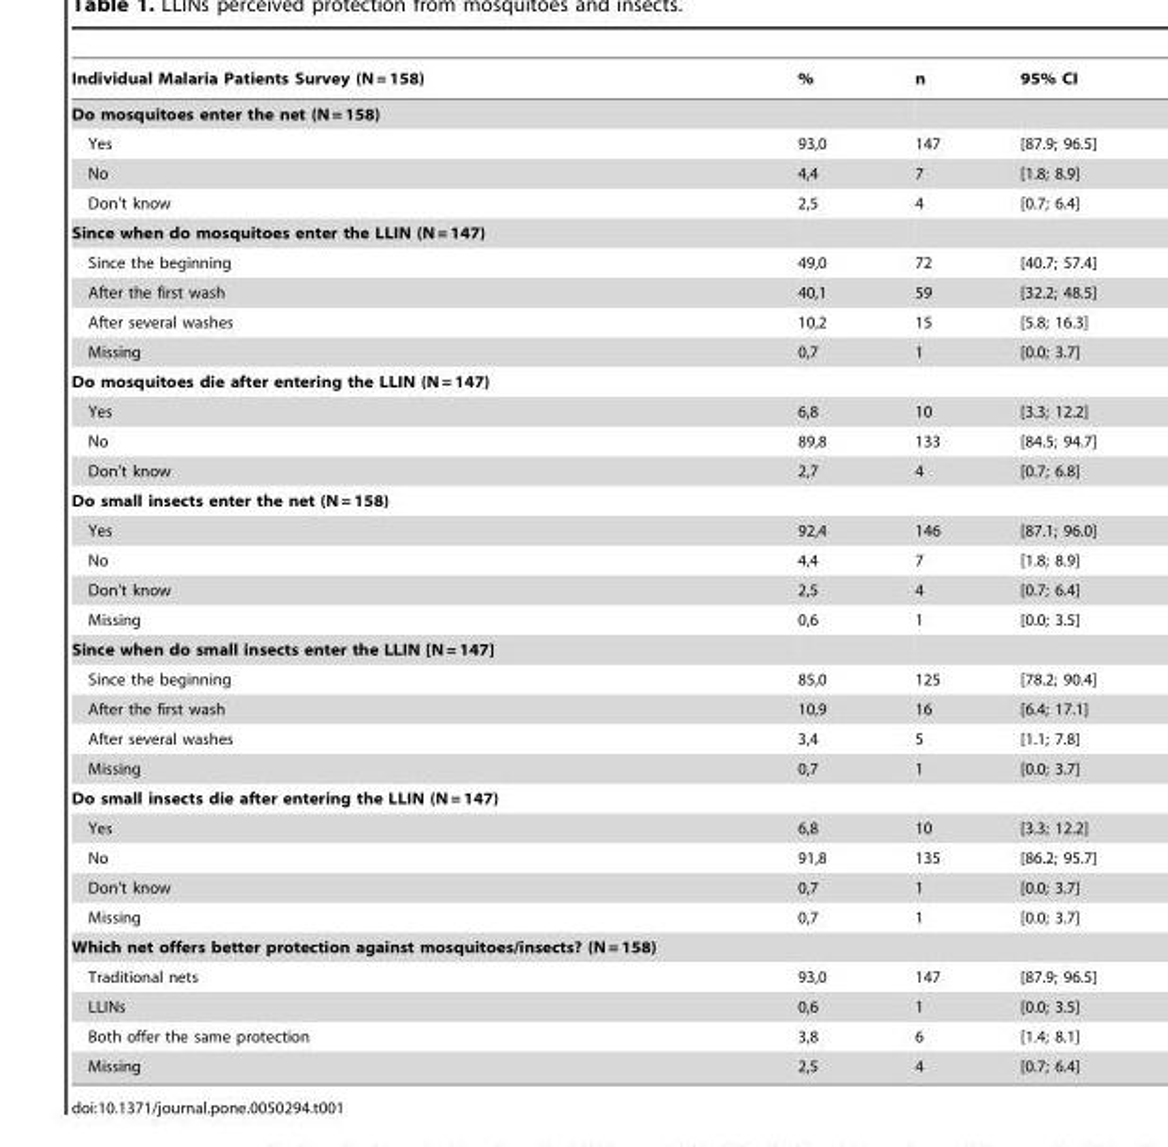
<table><thead><tr><td>Individual Malaria Patients Survey (N = 158)</td><td>%</td><td>n</td><td>95% CI</td></tr></thead><tbody><tr><td colspan="4">Do mosquitoes enter the net (N = 158)</td></tr><tr><td>Yes</td><td>93,0</td><td>147</td><td>[87.9; 96.5]</td></tr><tr><td>No</td><td>4,4</td><td>7</td><td>[1.8; 8.9]</td></tr><tr><td>Don’t know</td><td>2,5</td><td>4</td><td>[0.7; 6.4]</td></tr><tr><td colspan="4">Since when do mosquitoes enter the LLIN (N = 147)</td></tr><tr><td>Since the beginning</td><td>49,0</td><td>72</td><td>[40.7; 57.4]</td></tr><tr><td>After the first wash</td><td>40,1</td><td>59</td><td>[32.2; 48.5]</td></tr><tr><td>After several washes</td><td>10,2</td><td>15</td><td>[5.8; 16.3]</td></tr><tr><td>Missing</td><td>0,7</td><td>1</td><td>[0.0; 3.7]</td></tr><tr><td colspan="4">Do mosquitoes die after entering the LLIN (N = 147)</td></tr><tr><td>Yes</td><td>6,8</td><td>10</td><td>[3.3; 12.2]</td></tr><tr><td>No</td><td>89,8</td><td>133</td><td>[84.5; 94.7]</td></tr><tr><td>Don’t know</td><td>2,7</td><td>4</td><td>[0.7; 6.8]</td></tr><tr><td colspan="4">Do small insects enter the net (N = 158)</td></tr><tr><td>Yes</td><td>92,4</td><td>146</td><td>[87.1; 96.0]</td></tr><tr><td>No</td><td>4,4</td><td>7</td><td>[1.8; 8.9]</td></tr><tr><td>Don’t know</td><td>2,5</td><td>4</td><td>[0.7; 6.4]</td></tr><tr><td>Missing</td><td>0,6</td><td>1</td><td>[0.0; 3.5]</td></tr><tr><td colspan="4">Since when do small insects enter the LLIN [N = 147]</td></tr><tr><td>Since the beginning</td><td>85,0</td><td>125</td><td>[78.2; 90.4]</td></tr><tr><td>After the first wash</td><td>10,9</td><td>16</td><td>[6.4; 17.1]</td></tr><tr><td>After several washes</td><td>3,4</td><td>5</td><td>[1.1; 7.8]</td></tr><tr><td>Missing</td><td>0,7</td><td>1</td><td>[0.0; 3.7]</td></tr><tr><td colspan="4">Do small insects die after entering the LLIN (N = 147)</td></tr><tr><td>Yes</td><td>6,8</td><td>10</td><td>[3.3; 12.2]</td></tr><tr><td>No</td><td>91,8</td><td>135</td><td>[86.2; 95.7]</td></tr><tr><td>Don’t know</td><td>0,7</td><td>1</td><td>[0.0; 3.7]</td></tr><tr><td>Missing</td><td>0,7</td><td>1</td><td>[0.0; 3.7]</td></tr><tr><td colspan="4">Which net offers better protection against mosquitoes/insects? (N = 158)</td></tr><tr><td>Traditional nets</td><td>93,0</td><td>147</td><td>[87.9; 96.5]</td></tr><tr><td>LLINs</td><td>0,6</td><td>1</td><td>[0.0; 3.5]</td></tr><tr><td>Both offer the same protection</td><td>3,8</td><td>6</td><td>[1.4; 8.1]</td></tr><tr><td>Missing</td><td>2,5</td><td>4</td><td>[0.7; 6.4]</td></tr></tbody></table>